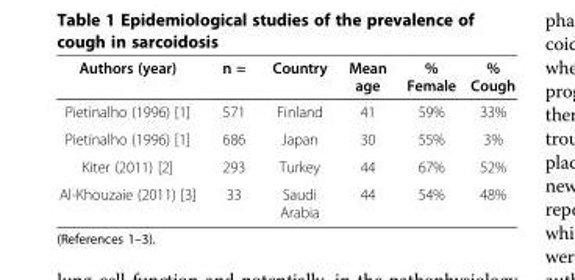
<table><thead><tr><td>Authors (year)</td><td>n =</td><td>Country</td><td>Mean age</td><td>% Female</td><td>% Cough</td></tr></thead><tbody><tr><td>Pietinalho (1996) [1]</td><td>571</td><td>Finland</td><td>41</td><td>59%</td><td>33%</td></tr><tr><td>Pietinalho (1996) [1]</td><td>686</td><td>Japan</td><td>30</td><td>55%</td><td>3%</td></tr><tr><td>Kiter (2011) [2]</td><td>293</td><td>Turkey</td><td>44</td><td>67%</td><td>52%</td></tr><tr><td>Al-Khouzaie (2011) [3]</td><td>33</td><td>Saudi Arabia</td><td>44</td><td>54%</td><td>48%</td></tr></tbody></table>